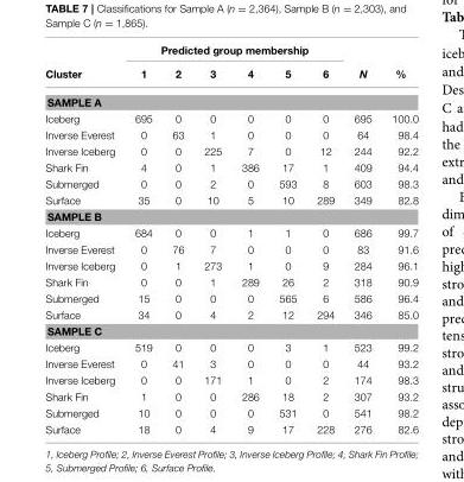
<table><thead><tr><td rowspan="2">Cluster</td><td colspan="6">Predicted group membership</td><td rowspan="2">N</td><td rowspan="2">%</td></tr><tr><td>1</td><td>2</td><td>3</td><td>4</td><td>5</td><td>6</td></tr></thead><tbody><tr><td colspan="9">SAMPLE A</td></tr><tr><td>Iceberg</td><td>695</td><td>0</td><td>0</td><td>0</td><td>0</td><td>0</td><td>695</td><td>100.0</td></tr><tr><td>Inverse Everest</td><td>0</td><td>63</td><td>1</td><td>0</td><td>0</td><td>0</td><td>64</td><td>98.4</td></tr><tr><td>Inverse Iceberg</td><td>0</td><td>0</td><td>225</td><td>7</td><td>0</td><td>12</td><td>244</td><td>92.2</td></tr><tr><td>Shark Fin</td><td>4</td><td>0</td><td>1</td><td>386</td><td>17</td><td>1</td><td>409</td><td>94.4</td></tr><tr><td>Submerged</td><td>0</td><td>0</td><td>2</td><td>0</td><td>593</td><td>8</td><td>603</td><td>98.3</td></tr><tr><td>Surface</td><td>35</td><td>0</td><td>10</td><td>5</td><td>10</td><td>289</td><td>349</td><td>82.8</td></tr><tr><td colspan="9">SAMPLE B</td></tr><tr><td>Iceberg</td><td>684</td><td>0</td><td>0</td><td>1</td><td>1</td><td>0</td><td>686</td><td>99.7</td></tr><tr><td>Inverse Everest</td><td>0</td><td>76</td><td>7</td><td>0</td><td>0</td><td>0</td><td>83</td><td>91.6</td></tr><tr><td>Inverse Iceberg</td><td>0</td><td>1</td><td>273</td><td>1</td><td>0</td><td>9</td><td>284</td><td>96.1</td></tr><tr><td>Shark Fin</td><td>0</td><td>0</td><td>1</td><td>289</td><td>26</td><td>2</td><td>318</td><td>90.9</td></tr><tr><td>Submerged</td><td>15</td><td>0</td><td>0</td><td>0</td><td>565</td><td>6</td><td>586</td><td>96.4</td></tr><tr><td>Surface</td><td>34</td><td>0</td><td>4</td><td>2</td><td>12</td><td>294</td><td>346</td><td>85.0</td></tr><tr><td colspan="9">SAMPLE C</td></tr><tr><td>Iceberg</td><td>519</td><td>0</td><td>0</td><td>0</td><td>3</td><td>1</td><td>523</td><td>99.2</td></tr><tr><td>Inverse Everest</td><td>0</td><td>41</td><td>3</td><td>0</td><td>0</td><td>0</td><td>44</td><td>93.2</td></tr><tr><td>Inverse Iceberg</td><td>0</td><td>0</td><td>171</td><td>1</td><td>0</td><td>2</td><td>174</td><td>98.3</td></tr><tr><td>Shark Fin</td><td>1</td><td>0</td><td>0</td><td>286</td><td>18</td><td>2</td><td>307</td><td>93.2</td></tr><tr><td>Submerged</td><td>10</td><td>0</td><td>0</td><td>0</td><td>531</td><td>0</td><td>541</td><td>98.2</td></tr><tr><td>Surface</td><td>18</td><td>0</td><td>4</td><td>9</td><td>17</td><td>228</td><td>276</td><td>82.6</td></tr></tbody></table>